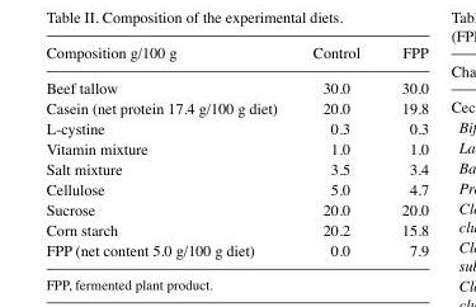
<table><thead><tr><td>Composition g/100 g</td><td>Control</td><td>FPP</td></tr></thead><tbody><tr><td>Beef tallow</td><td>30.0</td><td>30.0</td></tr><tr><td>Casein (net protein 17.4 g/100 g diet)</td><td>20.0</td><td>19.8</td></tr><tr><td>L-cystine</td><td>0.3</td><td>0.3</td></tr><tr><td>Vitamin mixture</td><td>1.0</td><td>1.0</td></tr><tr><td>Salt mixture</td><td>3.5</td><td>3.4</td></tr><tr><td>Cellulose</td><td>5.0</td><td>4.7</td></tr><tr><td>Sucrose</td><td>20.0</td><td>20.0</td></tr><tr><td>Corn starch</td><td>20.2</td><td>15.8</td></tr><tr><td>FPP (net content 5.0 g/100 g diet)</td><td>0.0</td><td>7.9</td></tr></tbody></table>